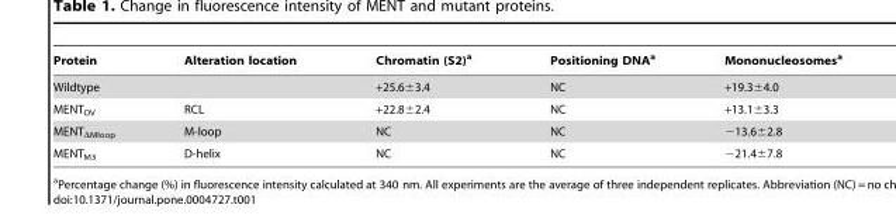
<table><thead><tr><td>Protein</td><td>Alteration location</td><td>Chromatin (S2)<sup>a</sup></td><td>Positioning DNA<sup>a</sup></td><td>Mononucleosomes<sup>a</sup></td></tr></thead><tbody><tr><td>Wildtype</td><td></td><td>+25.6±3.4</td><td>NC</td><td>+19.3±4.0</td></tr><tr><td>MENT<sub>OV</sub></td><td>RCL</td><td>+22.8±2.4</td><td>NC</td><td>+13.1±3.3</td></tr><tr><td>MENT<sub>ΔMloop</sub></td><td>M-loop</td><td>NC</td><td>NC</td><td>−13.6±2.8</td></tr><tr><td>MENT<sub>M3</sub></td><td>D-helix</td><td>NC</td><td>NC</td><td>−21.4±7.8</td></tr></tbody></table>